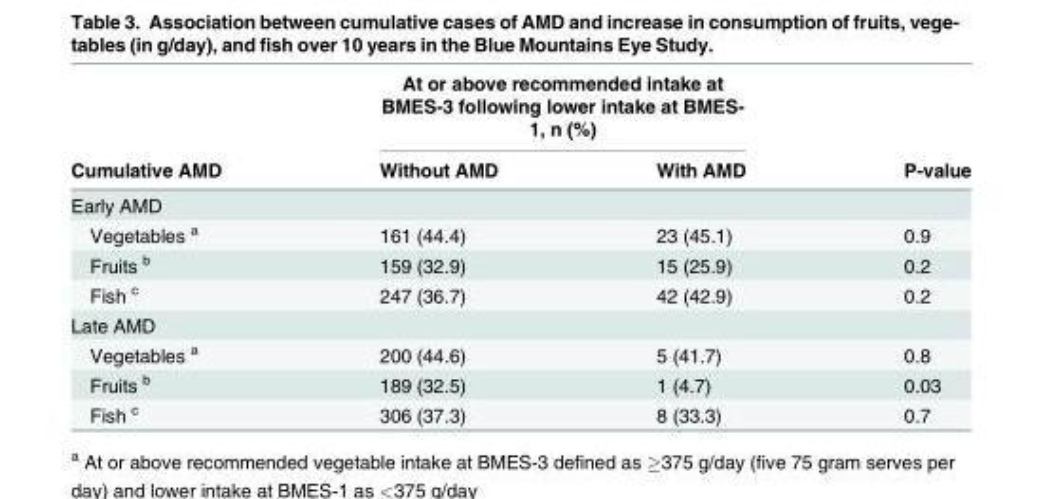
<table><thead><tr><td rowspan="2">Cumulative AMD</td><td colspan="2">At or above recommended intake at BMES-3 following lower intake at BMES- 1, n (%)</td><td rowspan="2">P-value</td></tr><tr><td>Without AMD</td><td>With AMD</td></tr></thead><tbody><tr><td colspan="4">Early AMD</td></tr><tr><td>Vegetables <sup>a</sup></td><td>161 (44.4)</td><td>23 (45.1)</td><td>0.9</td></tr><tr><td>Fruits <sup>b</sup></td><td>159 (32.9)</td><td>15 (25.9)</td><td>0.2</td></tr><tr><td>Fish <sup>c</sup></td><td>247 (36.7)</td><td>42 (42.9)</td><td>0.2</td></tr><tr><td colspan="4">Late AMD</td></tr><tr><td>Vegetables <sup>a</sup></td><td>200 (44.6)</td><td>5 (41.7)</td><td>0.8</td></tr><tr><td>Fruits <sup>b</sup></td><td>189 (32.5)</td><td>1 (4.7)</td><td>0.03</td></tr><tr><td>Fish <sup>c</sup></td><td>306 (37.3)</td><td>8 (33.3)</td><td>0.7</td></tr></tbody></table>